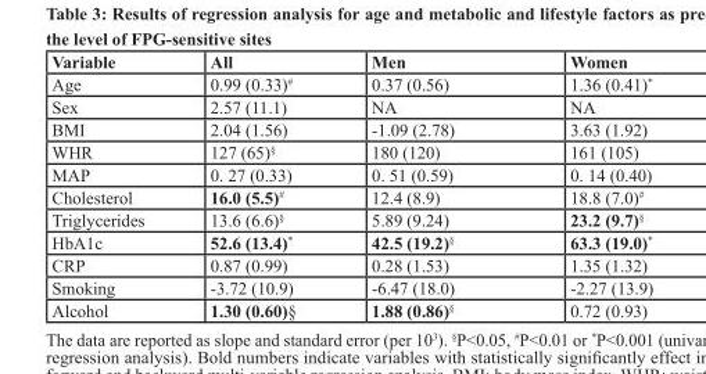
<table><thead><tr><td>Variable</td><td>All</td><td>Men</td><td>Women</td></tr></thead><tbody><tr><td>Age</td><td>0.99 (0.33)<sup>#</sup></td><td>0.37 (0.56)</td><td>1.36 (0.41)*</td></tr><tr><td>Sex</td><td>2.57 (11.1)</td><td>NA</td><td>NA</td></tr><tr><td>BMI</td><td>2.04 (1.56)</td><td>-1.09 (2.78)</td><td>3.63 (1.92)</td></tr><tr><td>WHR</td><td>127 (65)<sup>§</sup></td><td>180 (120)</td><td>161 (105)</td></tr><tr><td>MAP</td><td>0. 27 (0.33)</td><td>0. 51 (0.59)</td><td>0. 14 (0.40)</td></tr><tr><td>Cholesterol</td><td>16.0 (5.5)<sup>#</sup></td><td>12.4 (8.9)</td><td>18.8 (7.0)<sup>#</sup></td></tr><tr><td>Triglycerides</td><td>13.6 (6.6)<sup>§</sup></td><td>5.89 (9.24)</td><td>23.2 (9.7)<sup>§</sup></td></tr><tr><td>HbA1c</td><td>52.6 (13.4)*</td><td>42.5 (19.2)<sup>§</sup></td><td>63.3 (19.0)*</td></tr><tr><td>CRP</td><td>0.87 (0.99)</td><td>0.28 (1.53)</td><td>1.35 (1.32)</td></tr><tr><td>Smoking</td><td>-3.72 (10.9)</td><td>-6.47 (18.0)</td><td>-2.27 (13.9)</td></tr><tr><td>Alcohol</td><td>1.30 (0.60)§</td><td>1.88 (0.86)<sup>§</sup></td><td>0.72 (0.93)</td></tr></tbody></table>